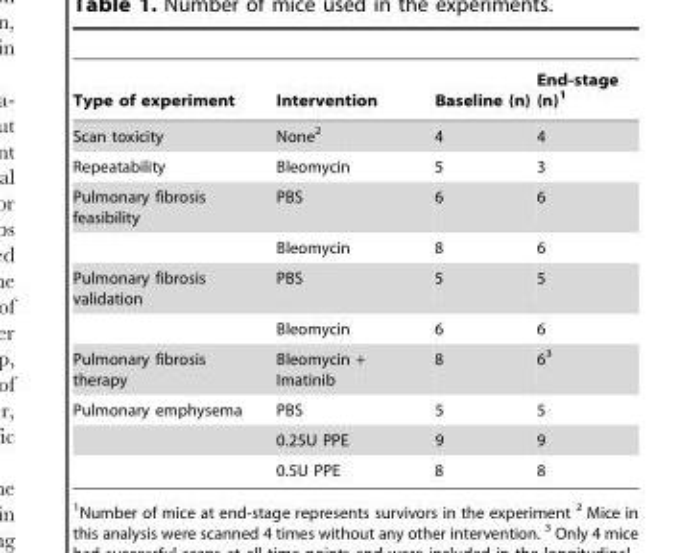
<table><thead><tr><td>Type of experiment</td><td>Intervention</td><td>Baseline (n)</td><td>End-stage (n)<sup>1</sup></td></tr></thead><tbody><tr><td>Scan toxicity</td><td>None<sup>2</sup></td><td>4</td><td>4</td></tr><tr><td>Repeatability</td><td>Bleomycin</td><td>5</td><td>3</td></tr><tr><td rowspan="2">Pulmonary fibrosis feasibility</td><td>PBS</td><td>6</td><td>6</td></tr><tr><td>Bleomycin</td><td>8</td><td>6</td></tr><tr><td rowspan="2">Pulmonary fibrosis validation</td><td>PBS</td><td>5</td><td>5</td></tr><tr><td>Bleomycin</td><td>6</td><td>6</td></tr><tr><td>Pulmonary fibrosis therapy</td><td>Bleomycin + Imatinib</td><td>8</td><td>6<sup>3</sup></td></tr><tr><td rowspan="3">Pulmonary emphysema</td><td>PBS</td><td>5</td><td>5</td></tr><tr><td>0.25U PPE</td><td>9</td><td>9</td></tr><tr><td>0.5U PPE</td><td>8</td><td>8</td></tr></tbody></table>